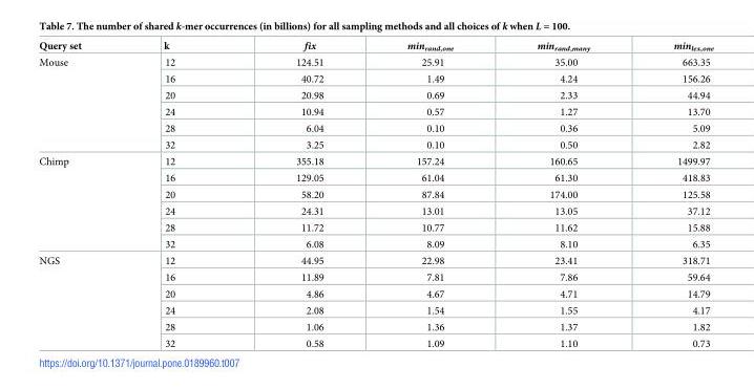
<table><thead><tr><td>Query set</td><td>k</td><td>fix</td><td>min<sub>rand,one</sub></td><td>min<sub>rand,many</sub></td><td>min<sub>lex,one</sub></td></tr></thead><tbody><tr><td rowspan="6">Mouse</td><td>12</td><td>124.51</td><td>25.91</td><td>35.00</td><td>663.35</td></tr><tr><td>16</td><td>40.72</td><td>1.49</td><td>4.24</td><td>156.26</td></tr><tr><td>20</td><td>20.98</td><td>0.69</td><td>2.33</td><td>44.94</td></tr><tr><td>24</td><td>10.94</td><td>0.57</td><td>1.27</td><td>13.70</td></tr><tr><td>28</td><td>6.04</td><td>0.10</td><td>0.36</td><td>5.09</td></tr><tr><td>32</td><td>3.25</td><td>0.10</td><td>0.50</td><td>2.82</td></tr><tr><td rowspan="6">Chimp</td><td>12</td><td>355.18</td><td>157.24</td><td>160.65</td><td>1499.97</td></tr><tr><td>16</td><td>129.05</td><td>61.04</td><td>61.30</td><td>418.83</td></tr><tr><td>20</td><td>58.20</td><td>87.84</td><td>174.00</td><td>125.58</td></tr><tr><td>24</td><td>24.31</td><td>13.01</td><td>13.05</td><td>37.12</td></tr><tr><td>28</td><td>11.72</td><td>10.77</td><td>11.62</td><td>15.88</td></tr><tr><td>32</td><td>6.08</td><td>8.09</td><td>8.10</td><td>6.35</td></tr><tr><td rowspan="6">NGS</td><td>12</td><td>44.95</td><td>22.98</td><td>23.41</td><td>318.71</td></tr><tr><td>16</td><td>11.89</td><td>7.81</td><td>7.86</td><td>59.64</td></tr><tr><td>20</td><td>4.86</td><td>4.67</td><td>4.71</td><td>14.79</td></tr><tr><td>24</td><td>2.08</td><td>1.54</td><td>1.55</td><td>4.17</td></tr><tr><td>28</td><td>1.06</td><td>1.36</td><td>1.37</td><td>1.82</td></tr><tr><td>32</td><td>0.58</td><td>1.09</td><td>1.10</td><td>0.73</td></tr></tbody></table>